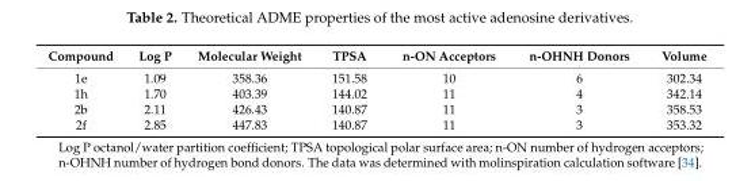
<table><thead><tr><td>Compound</td><td>Log P</td><td>Molecular Weight</td><td>TPSA</td><td>n-ON Acceptors</td><td>n-OHNH Donors</td><td>Volume</td></tr></thead><tbody><tr><td>1e</td><td>1.09</td><td>358.36</td><td>151.58</td><td>10</td><td>6</td><td>302.34</td></tr><tr><td>1h</td><td>1.70</td><td>403.39</td><td>144.02</td><td>11</td><td>4</td><td>342.14</td></tr><tr><td>2b</td><td>2.11</td><td>426.43</td><td>140.87</td><td>11</td><td>3</td><td>358.53</td></tr><tr><td>2f</td><td>2.85</td><td>447.83</td><td>140.87</td><td>11</td><td>3</td><td>353.32</td></tr></tbody></table>